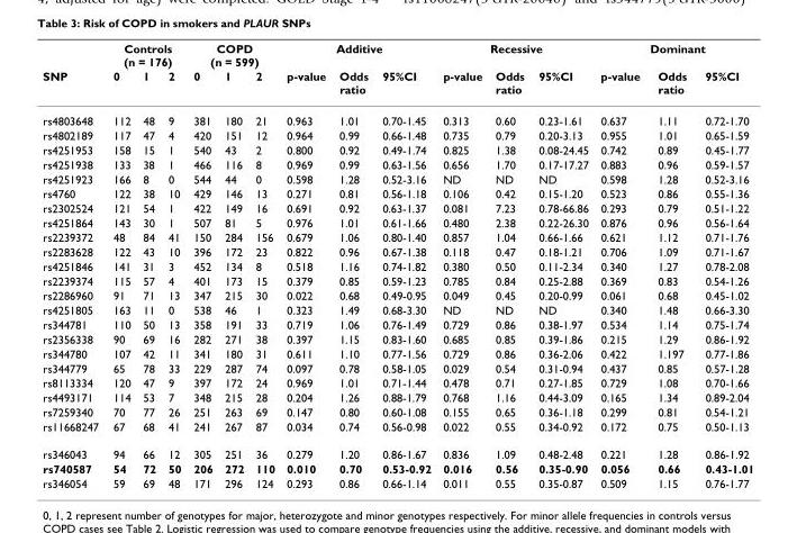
<table><thead><tr><td rowspan="2">SNP</td><td colspan="3">Controls (n = 176)</td><td colspan="3">COPD (n = 599)</td><td colspan="3">Additive</td><td colspan="3">Recessive</td><td colspan="3">Dominant</td></tr><tr><td>0</td><td>1</td><td>2</td><td>0</td><td>1</td><td>2</td><td>p-value</td><td>Odds ratio</td><td>95%CI</td><td>p-value</td><td>Odds ratio</td><td>95%CI</td><td>p-value</td><td>Odds ratio</td><td>95%CI</td></tr></thead><tbody><tr><td>rs4803648</td><td>112</td><td>48</td><td>9</td><td>381</td><td>180</td><td>21</td><td>0.963</td><td>1.01</td><td>0.70-1.45</td><td>0.313</td><td>0.60</td><td>0.23-1.61</td><td>0.637</td><td>1.11</td><td>0.72-1.70</td></tr><tr><td>rs4802189</td><td>117</td><td>47</td><td>4</td><td>420</td><td>151</td><td>12</td><td>0.964</td><td>0.99</td><td>0.66-1.48</td><td>0.735</td><td>0.79</td><td>0.20-3.13</td><td>0.955</td><td>1.01</td><td>0.65-1.59</td></tr><tr><td>rs4251953</td><td>158</td><td>15</td><td>1</td><td>540</td><td>43</td><td>2</td><td>0.800</td><td>0.92</td><td>0.49-1.74</td><td>0.825</td><td>1.38</td><td>0.08-24.45</td><td>0.742</td><td>0.89</td><td>0.45-1.77</td></tr><tr><td>rs4251938</td><td>133</td><td>38</td><td>1</td><td>466</td><td>116</td><td>8</td><td>0.969</td><td>0.99</td><td>0.63-1.56</td><td>0.656</td><td>1.70</td><td>0.17-17.27</td><td>0.883</td><td>0.96</td><td>0.59-1.57</td></tr><tr><td>rs4251923</td><td>166</td><td>8</td><td>0</td><td>544</td><td>44</td><td>0</td><td>0.598</td><td>1.28</td><td>0.52-3.16</td><td>ND</td><td>ND</td><td>ND</td><td>0.598</td><td>1.28</td><td>0.52-3.16</td></tr><tr><td>rs4760</td><td>122</td><td>38</td><td>10</td><td>429</td><td>146</td><td>13</td><td>0.271</td><td>0.81</td><td>0.56-1.18</td><td>0.106</td><td>0.42</td><td>0.15-1.20</td><td>0.523</td><td>0.86</td><td>0.55-1.36</td></tr><tr><td>rs2302524</td><td>121</td><td>54</td><td>1</td><td>422</td><td>149</td><td>16</td><td>0.691</td><td>0.92</td><td>0.63-1.37</td><td>0.081</td><td>7.23</td><td>0.78-66.86</td><td>0.293</td><td>0.79</td><td>0.51-1.22</td></tr><tr><td>rs4251864</td><td>143</td><td>30</td><td>1</td><td>507</td><td>81</td><td>5</td><td>0.976</td><td>1.01</td><td>0.61-1.66</td><td>0.480</td><td>2.38</td><td>0.22-26.30</td><td>0.876</td><td>0.96</td><td>0.56-1.64</td></tr><tr><td>rs2239372</td><td>48</td><td>84</td><td>41</td><td>150</td><td>284</td><td>156</td><td>0.679</td><td>1.06</td><td>0.80-1.40</td><td>0.857</td><td>1.04</td><td>0.66-1.66</td><td>0.621</td><td>1.12</td><td>0.71-1.76</td></tr><tr><td>rs2283628</td><td>122</td><td>43</td><td>10</td><td>396</td><td>172</td><td>23</td><td>0.822</td><td>0.96</td><td>0.67-1.38</td><td>0.118</td><td>0.47</td><td>0.18-1.21</td><td>0.706</td><td>1.09</td><td>0.71-1.67</td></tr><tr><td>rs4251846</td><td>141</td><td>31</td><td>3</td><td>452</td><td>134</td><td>8</td><td>0.518</td><td>1.16</td><td>0.74-1.82</td><td>0.380</td><td>0.50</td><td>0.11-2.34</td><td>0.340</td><td>1.27</td><td>0.78-2.08</td></tr><tr><td>rs2239374</td><td>115</td><td>57</td><td>4</td><td>401</td><td>173</td><td>15</td><td>0.379</td><td>0.85</td><td>0.59-1.23</td><td>0.785</td><td>0.84</td><td>0.25-2.88</td><td>0.369</td><td>0.83</td><td>0.54-1.26</td></tr><tr><td>rs2286960</td><td>91</td><td>71</td><td>13</td><td>347</td><td>215</td><td>30</td><td>0.022</td><td>0.68</td><td>0.49-0.95</td><td>0.049</td><td>0.45</td><td>0.20-0.99</td><td>0.061</td><td>0.68</td><td>0.45-1.02</td></tr><tr><td>rs4251805</td><td>163</td><td>11</td><td>0</td><td>538</td><td>46</td><td>1</td><td>0.323</td><td>1.49</td><td>0.68-3.30</td><td>ND</td><td>ND</td><td>ND</td><td>0.340</td><td>1.48</td><td>0.66-3.30</td></tr><tr><td>rs344781</td><td>110</td><td>50</td><td>13</td><td>358</td><td>191</td><td>33</td><td>0.719</td><td>1.06</td><td>0.76-1.49</td><td>0.729</td><td>0.86</td><td>0.38-1.97</td><td>0.534</td><td>1.14</td><td>0.75-1.74</td></tr><tr><td>rs2356338</td><td>90</td><td>69</td><td>16</td><td>282</td><td>271</td><td>38</td><td>0.397</td><td>1.15</td><td>0.83-1.60</td><td>0.685</td><td>0.85</td><td>0.39-1.86</td><td>0.215</td><td>1.29</td><td>0.86-1.92</td></tr><tr><td>rs344780</td><td>107</td><td>42</td><td>11</td><td>341</td><td>180</td><td>31</td><td>0.611</td><td>1.10</td><td>0.77-1.56</td><td>0.729</td><td>0.86</td><td>0.36-2.06</td><td>0.422</td><td>1.197</td><td>0.77-1.86</td></tr><tr><td>rs344779</td><td>65</td><td>78</td><td>33</td><td>229</td><td>287</td><td>74</td><td>0.097</td><td>0.78</td><td>0.58-1.05</td><td>0.029</td><td>0.54</td><td>0.31-0.94</td><td>0.437</td><td>0.85</td><td>0.57-1.28</td></tr><tr><td>rs8113334</td><td>120</td><td>47</td><td>9</td><td>397</td><td>172</td><td>24</td><td>0.969</td><td>1.01</td><td>0.71-1.44</td><td>0.478</td><td>0.71</td><td>0.27-1.85</td><td>0.729</td><td>1.08</td><td>0.70-1.66</td></tr><tr><td>rs4493171</td><td>114</td><td>53</td><td>7</td><td>348</td><td>215</td><td>28</td><td>0.204</td><td>1.26</td><td>0.88-1.79</td><td>0.768</td><td>1.16</td><td>0.44-3.09</td><td>0.165</td><td>1.34</td><td>0.89-2.04</td></tr><tr><td>rs7259340</td><td>70</td><td>77</td><td>26</td><td>251</td><td>263</td><td>69</td><td>0.147</td><td>0.80</td><td>0.60-1.08</td><td>0.155</td><td>0.65</td><td>0.36-1.18</td><td>0.299</td><td>0.81</td><td>0.54-1.21</td></tr><tr><td>rs11668247</td><td>67</td><td>68</td><td>41</td><td>241</td><td>267</td><td>87</td><td>0.034</td><td>0.74</td><td>0.56-0.98</td><td>0.022</td><td>0.55</td><td>0.34-0.92</td><td>0.172</td><td>0.75</td><td>0.50-1.13</td></tr><tr><td>rs346043</td><td>94</td><td>66</td><td>12</td><td>305</td><td>251</td><td>36</td><td>0.279</td><td>1.20</td><td>0.86-1.67</td><td>0.836</td><td>1.09</td><td>0.48-2.48</td><td>0.221</td><td>1.28</td><td>0.86-1.92</td></tr><tr><td>rs740587</td><td>54</td><td>72</td><td>50</td><td>206</td><td>272</td><td>110</td><td>0.010</td><td>0.70</td><td>0.53-0.92</td><td>0.016</td><td>0.56</td><td>0.35-0.90</td><td>0.056</td><td>0.66</td><td>0.43-1.01</td></tr><tr><td>rs346054</td><td>59</td><td>69</td><td>48</td><td>171</td><td>296</td><td>124</td><td>0.293</td><td>0.86</td><td>0.66-1.14</td><td>0.011</td><td>0.55</td><td>0.35-0.87</td><td>0.509</td><td>1.15</td><td>0.76-1.77</td></tr></tbody></table>